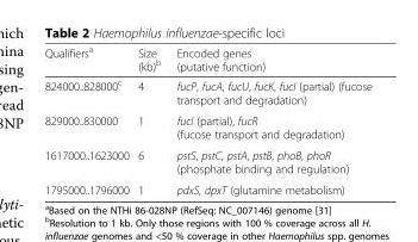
<table><thead><tr><td>Qualifiers<sup>a</sup></td><td>Size (kb)<sup>b</sup></td><td>Encoded genes (putative function)</td></tr></thead><tbody><tr><td>824000..828000<sup>c</sup></td><td>4</td><td>fucP, fucA, fucU, fucK, fucI (partial) (fucose transport and degradation)</td></tr><tr><td>829000..830000</td><td>1</td><td>fucI (partial), fucR (fucose transport and degradation)</td></tr><tr><td>1617000..1623000</td><td>6</td><td>pstS, pstC, pstA, pstB, phoB, phoR (phosphate binding and regulation)</td></tr><tr><td>1795000..1796000</td><td>1</td><td>pdxS, dpxT (glutamine metabolism)</td></tr></tbody></table>